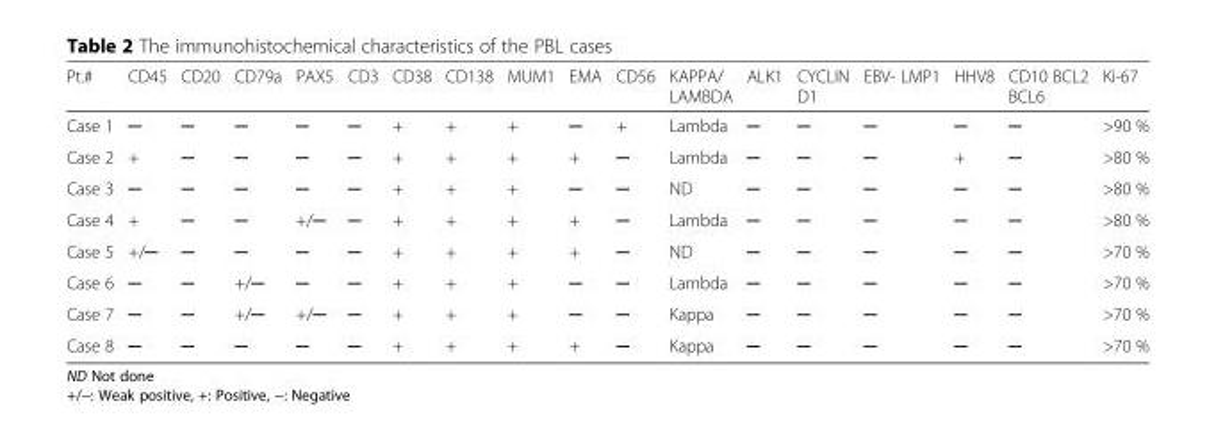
<table><thead><tr><td>Pt.#</td><td>CD45</td><td>CD20</td><td>CD79a</td><td>PAX5</td><td>CD3</td><td>CD38</td><td>CD138</td><td>MUM1</td><td>EMA</td><td>CD56</td><td>KAPPA/ LAMBDA</td><td>ALK1</td><td>CYCLIN D1</td><td>EBV- LMP1</td><td>HHV8</td><td>CD10 BCL2 BCL6</td><td>Ki-67</td></tr></thead><tbody><tr><td>Case 1</td><td>─</td><td>─</td><td>─</td><td>─</td><td>─</td><td>+</td><td>+</td><td>+</td><td>─</td><td>+</td><td>Lambda</td><td>─</td><td>─</td><td>─</td><td>─</td><td>─</td><td>&gt;90 %</td></tr><tr><td>Case 2</td><td>+</td><td>─</td><td>─</td><td>─</td><td>─</td><td>+</td><td>+</td><td>+</td><td>+</td><td>─</td><td>Lambda</td><td>─</td><td>─</td><td>─</td><td>+</td><td>─</td><td>&gt;80 %</td></tr><tr><td>Case 3</td><td>─</td><td>─</td><td>─</td><td>─</td><td>─</td><td>+</td><td>+</td><td>+</td><td>─</td><td>─</td><td>ND</td><td>─</td><td>─</td><td>─</td><td>─</td><td>─</td><td>&gt;80 %</td></tr><tr><td>Case 4</td><td>+</td><td>─</td><td>─</td><td>+/─</td><td>─</td><td>+</td><td>+</td><td>+</td><td>+</td><td>─</td><td>Lambda</td><td>─</td><td>─</td><td>─</td><td>─</td><td>─</td><td>&gt;80 %</td></tr><tr><td>Case 5</td><td>+/─</td><td>─</td><td>─</td><td>─</td><td>─</td><td>+</td><td>+</td><td>+</td><td>+</td><td>─</td><td>ND</td><td>─</td><td>─</td><td>─</td><td>─</td><td>─</td><td>&gt;70 %</td></tr><tr><td>Case 6</td><td>─</td><td>─</td><td>+/─</td><td>─</td><td>─</td><td>+</td><td>+</td><td>+</td><td>─</td><td>─</td><td>Lambda</td><td>─</td><td>─</td><td>─</td><td>─</td><td>─</td><td>&gt;70 %</td></tr><tr><td>Case 7</td><td>─</td><td>─</td><td>+/─</td><td>+/─</td><td>─</td><td>+</td><td>+</td><td>+</td><td>─</td><td>─</td><td>Kappa</td><td>─</td><td>─</td><td>─</td><td>─</td><td>─</td><td>&gt;70 %</td></tr><tr><td>Case 8</td><td>─</td><td>─</td><td>─</td><td>─</td><td>─</td><td>+</td><td>+</td><td>+</td><td>+</td><td>─</td><td>Kappa</td><td>─</td><td>─</td><td>─</td><td>─</td><td>─</td><td>&gt;70 %</td></tr></tbody></table>